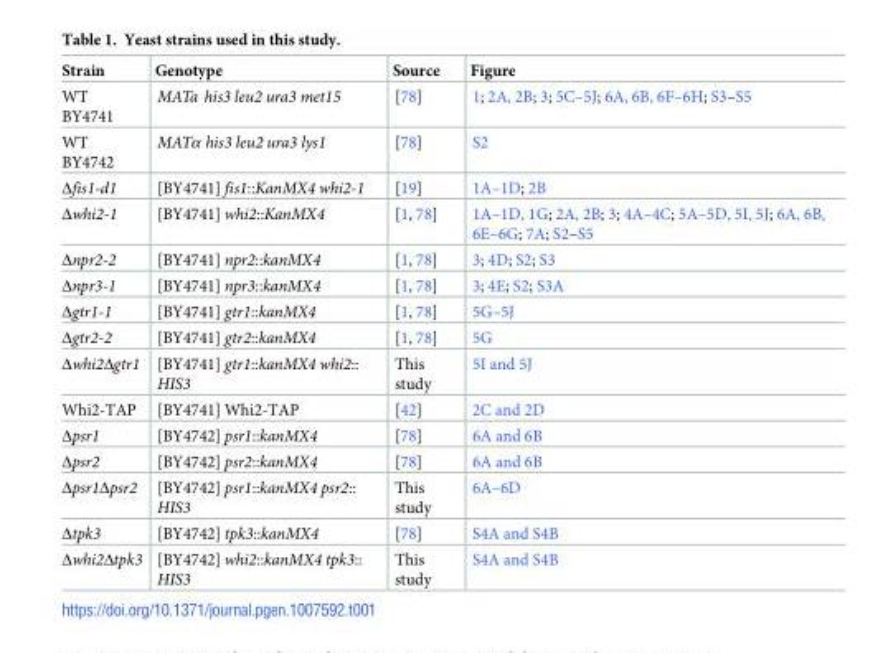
<table><thead><tr><td>Strain</td><td>Genotype</td><td>Source</td><td>Figure</td></tr></thead><tbody><tr><td>WT BY4741</td><td>MATa his3 leu2 ura3 met15</td><td>[78]</td><td>1; 2A, 2B; 3; 5C–5J; 6A, 6B, 6F–6H; S3–S5</td></tr><tr><td>WT BY4742</td><td>MATα his3 leu2 ura3 lys1</td><td>[78]</td><td>S2</td></tr><tr><td>Δfis1-d1</td><td>[BY4741] fis1::KanMX4 whi2-1</td><td>[19]</td><td>1A–1D; 2B</td></tr><tr><td>Δwhi2-1</td><td>[BY4741] whi2::KanMX4</td><td>[1, 78]</td><td>1A–1D, 1G; 2A, 2B; 3; 4A–4C; 5A–5D, 5I, 5J; 6A, 6B, 6E–6G; 7A; S2–S5</td></tr><tr><td>Δnpr2-2</td><td>[BY4741] npr2::kanMX4</td><td>[1, 78]</td><td>3; 4D; S2; S3</td></tr><tr><td>Δnpr3-1</td><td>[BY4741] npr3::kanMX4</td><td>[1, 78]</td><td>3; 4E; S2; S3A</td></tr><tr><td>Δgtr1-1</td><td>[BY4741] gtr1::kanMX4</td><td>[1, 78]</td><td>5G–5J</td></tr><tr><td>Δgtr2-2</td><td>[BY4741] gtr2::kanMX4</td><td>[1, 78]</td><td>5G</td></tr><tr><td>Δwhi2Δgtr1</td><td>[BY4741] gtr1::kanMX4 whi2:: HIS3</td><td>This study</td><td>5I and 5J</td></tr><tr><td>Whi2-TAP</td><td>[BY4741] Whi2-TAP</td><td>[42]</td><td>2C and 2D</td></tr><tr><td>Δpsr1</td><td>[BY4742] psr1::kanMX4</td><td>[78]</td><td>6A and 6B</td></tr><tr><td>Δpsr2</td><td>[BY4742] psr2::kanMX4</td><td>[78]</td><td>6A and 6B</td></tr><tr><td>Δpsr1Δpsr2</td><td>[BY4742] psr1::kanMX4 psr2:: HIS3</td><td>This study</td><td>6A–6D</td></tr><tr><td>Δtpk3</td><td>[BY4742] tpk3::kanMX4</td><td>[78]</td><td>S4A and S4B</td></tr><tr><td>Δwhi2Δtpk3</td><td>[BY4742] whi2::kanMX4 tpk3:: HIS3</td><td>This study</td><td>S4A and S4B</td></tr></tbody></table>